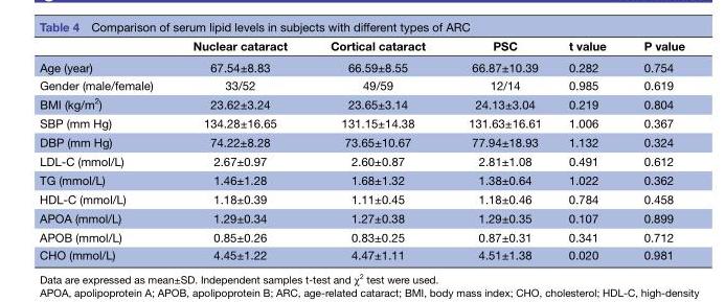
<table><thead><tr><td></td><td>Nuclear cataract</td><td>Cortical cataract</td><td>PSC</td><td>t value</td><td>P value</td></tr></thead><tbody><tr><td>Age (year)</td><td>67.54±8.83</td><td>66.59±8.55</td><td>66.87±10.39</td><td>0.282</td><td>0.754</td></tr><tr><td>Gender (male/female)</td><td>33/52</td><td>49/59</td><td>12/14</td><td>0.985</td><td>0.619</td></tr><tr><td>BMI (kg/m<sup>2</sup>)</td><td>23.62±3.24</td><td>23.65±3.14</td><td>24.13±3.04</td><td>0.219</td><td>0.804</td></tr><tr><td>SBP (mm Hg)</td><td>134.28±16.65</td><td>131.15±14.38</td><td>131.63±16.61</td><td>1.006</td><td>0.367</td></tr><tr><td>DBP (mm Hg)</td><td>74.22±8.28</td><td>73.65±10.67</td><td>77.94±18.93</td><td>1.132</td><td>0.324</td></tr><tr><td>LDL-C (mmol/L)</td><td>2.67±0.97</td><td>2.60±0.87</td><td>2.81±1.08</td><td>0.491</td><td>0.612</td></tr><tr><td>TG (mmol/L)</td><td>1.46±1.28</td><td>1.68±1.32</td><td>1.38±0.64</td><td>1.022</td><td>0.362</td></tr><tr><td>HDL-C (mmol/L)</td><td>1.18±0.39</td><td>1.11±0.45</td><td>1.18±0.46</td><td>0.784</td><td>0.458</td></tr><tr><td>APOA (mmol/L)</td><td>1.29±0.34</td><td>1.27±0.38</td><td>1.29±0.35</td><td>0.107</td><td>0.899</td></tr><tr><td>APOB (mmol/L)</td><td>0.85±0.26</td><td>0.83±0.25</td><td>0.87±0.31</td><td>0.341</td><td>0.712</td></tr><tr><td>CHO (mmol/L)</td><td>4.45±1.22</td><td>4.47±1.11</td><td>4.51±1.38</td><td>0.020</td><td>0.981</td></tr></tbody></table>